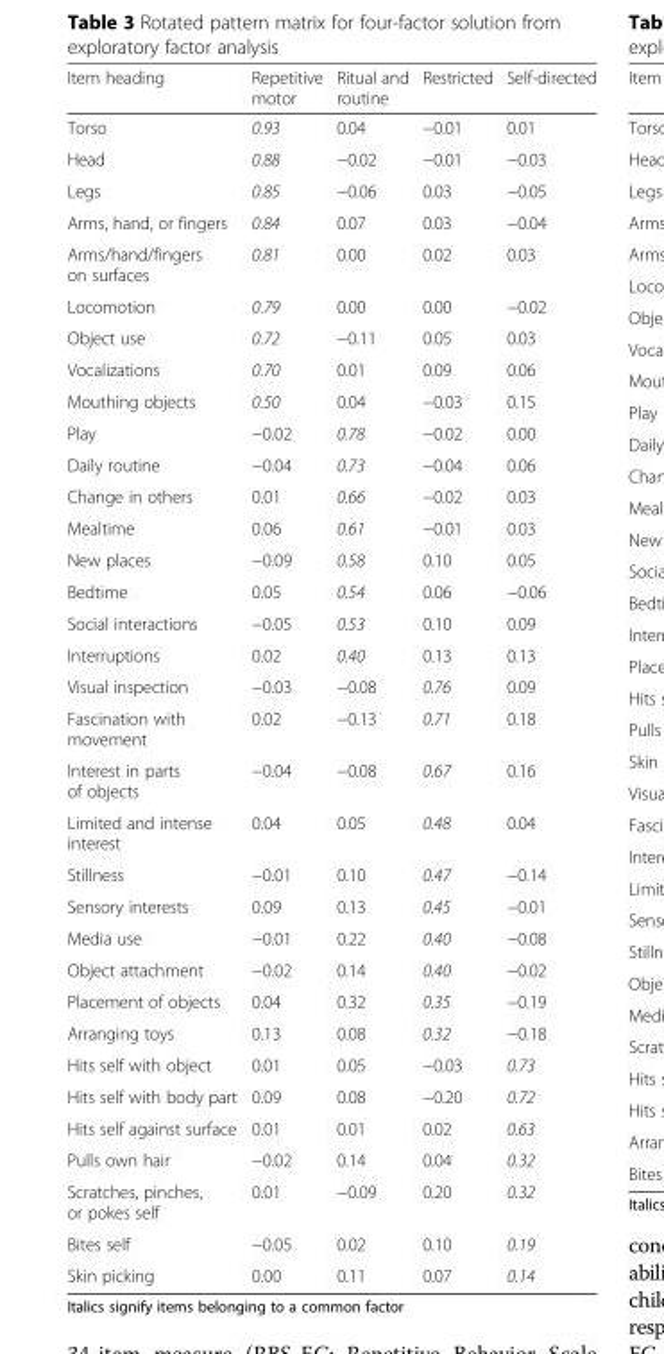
<table><thead><tr><td>Item heading</td><td>Repetitive motor</td><td>Ritual and routine</td><td>Restricted</td><td>Self-directed</td></tr></thead><tbody><tr><td>Torso</td><td>0.93</td><td>0.04</td><td>−0.01</td><td>0.01</td></tr><tr><td>Head</td><td>0.88</td><td>−0.02</td><td>−0.01</td><td>−0.03</td></tr><tr><td>Legs</td><td>0.85</td><td>−0.06</td><td>0.03</td><td>−0.05</td></tr><tr><td>Arms, hand, or fingers</td><td>0.84</td><td>0.07</td><td>0.03</td><td>−0.04</td></tr><tr><td>Arms/hand/fingers on surfaces</td><td>0.81</td><td>0.00</td><td>0.02</td><td>0.03</td></tr><tr><td>Locomotion</td><td>0.79</td><td>0.00</td><td>0.00</td><td>−0.02</td></tr><tr><td>Object use</td><td>0.72</td><td>−0.11</td><td>0.05</td><td>0.03</td></tr><tr><td>Vocalizations</td><td>0.70</td><td>0.01</td><td>0.09</td><td>0.06</td></tr><tr><td>Mouthing objects</td><td>0.50</td><td>0.04</td><td>−0.03</td><td>0.15</td></tr><tr><td>Play</td><td>−0.02</td><td>0.78</td><td>−0.02</td><td>0.00</td></tr><tr><td>Daily routine</td><td>−0.04</td><td>0.73</td><td>−0.04</td><td>0.06</td></tr><tr><td>Change in others</td><td>0.01</td><td>0.66</td><td>−0.02</td><td>0.03</td></tr><tr><td>Mealtime</td><td>0.06</td><td>0.61</td><td>−0.01</td><td>0.03</td></tr><tr><td>New places</td><td>−0.09</td><td>0.58</td><td>0.10</td><td>0.05</td></tr><tr><td>Bedtime</td><td>0.05</td><td>0.54</td><td>0.06</td><td>−0.06</td></tr><tr><td>Social interactions</td><td>−0.05</td><td>0.53</td><td>0.10</td><td>0.09</td></tr><tr><td>Interruptions</td><td>0.02</td><td>0.40</td><td>0.13</td><td>0.13</td></tr><tr><td>Visual inspection</td><td>−0.03</td><td>−0.08</td><td>0.76</td><td>0.09</td></tr><tr><td>Fascination with movement</td><td>0.02</td><td>−0.13</td><td>0.71</td><td>0.18</td></tr><tr><td>Interest in parts of objects</td><td>−0.04</td><td>−0.08</td><td>0.67</td><td>0.16</td></tr><tr><td>Limited and intense interest</td><td>0.04</td><td>0.05</td><td>0.48</td><td>0.04</td></tr><tr><td>Stillness</td><td>−0.01</td><td>0.10</td><td>0.47</td><td>−0.14</td></tr><tr><td>Sensory interests</td><td>0.09</td><td>0.13</td><td>0.45</td><td>−0.01</td></tr><tr><td>Media use</td><td>−0.01</td><td>0.22</td><td>0.40</td><td>−0.08</td></tr><tr><td>Object attachment</td><td>−0.02</td><td>0.14</td><td>0.40</td><td>−0.02</td></tr><tr><td>Placement of objects</td><td>0.04</td><td>0.32</td><td>0.35</td><td>−0.19</td></tr><tr><td>Arranging toys</td><td>0.13</td><td>0.08</td><td>0.32</td><td>−0.18</td></tr><tr><td>Hits self with object</td><td>0.01</td><td>0.05</td><td>−0.03</td><td>0.73</td></tr><tr><td>Hits self with body part</td><td>0.09</td><td>0.08</td><td>−0.20</td><td>0.72</td></tr><tr><td>Hits self against surface</td><td>0.01</td><td>0.01</td><td>0.02</td><td>0.63</td></tr><tr><td>Pulls own hair</td><td>−0.02</td><td>0.14</td><td>0.04</td><td>0.32</td></tr><tr><td>Scratches, pinches, or pokes self</td><td>0.01</td><td>−0.09</td><td>0.20</td><td>0.32</td></tr><tr><td>Bites self</td><td>−0.05</td><td>0.02</td><td>0.10</td><td>0.19</td></tr><tr><td>Skin picking</td><td>0.00</td><td>0.11</td><td>0.07</td><td>0.14</td></tr></tbody></table>